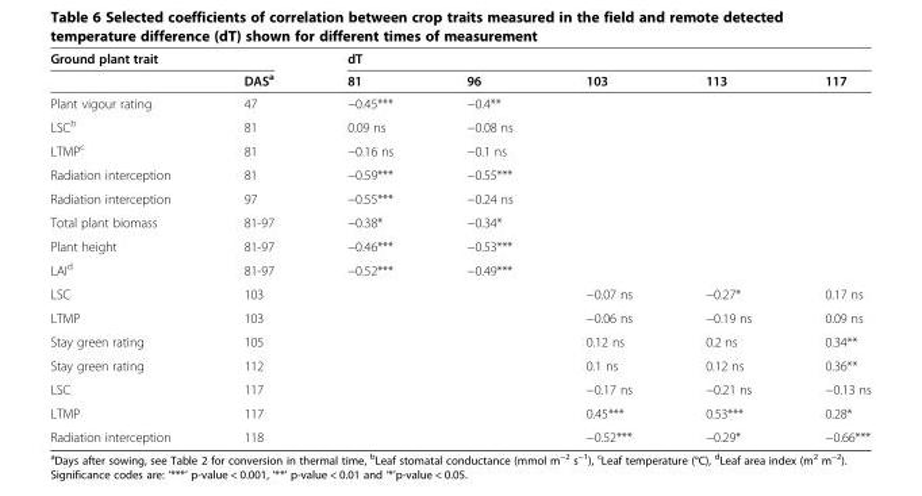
<table><thead><tr><td colspan="2">Ground plant trait</td><td colspan="5">dT</td></tr><tr><td></td><td>DAS<sup>a</sup></td><td>81</td><td>96</td><td>103</td><td>113</td><td>117</td></tr></thead><tbody><tr><td>Plant vigour rating</td><td>47</td><td>−0.45***</td><td>−0.4**</td><td></td><td></td><td></td></tr><tr><td>LSC<sup>b</sup></td><td>81</td><td>0.09 ns</td><td>−0.08 ns</td><td></td><td></td><td></td></tr><tr><td>LTMP<sup>c</sup></td><td>81</td><td>−0.16 ns</td><td>−0.1 ns</td><td></td><td></td><td></td></tr><tr><td>Radiation interception</td><td>81</td><td>−0.59***</td><td>−0.55***</td><td></td><td></td><td></td></tr><tr><td>Radiation interception</td><td>97</td><td>−0.55***</td><td>−0.24 ns</td><td></td><td></td><td></td></tr><tr><td>Total plant biomass</td><td>81-97</td><td>−0.38*</td><td>−0.34*</td><td></td><td></td><td></td></tr><tr><td>Plant height</td><td>81-97</td><td>−0.46***</td><td>−0.53***</td><td></td><td></td><td></td></tr><tr><td>LAI<sup>d</sup></td><td>81-97</td><td>−0.52***</td><td>−0.49***</td><td></td><td></td><td></td></tr><tr><td>LSC</td><td>103</td><td></td><td></td><td>−0.07 ns</td><td>−0.27*</td><td>0.17 ns</td></tr><tr><td>LTMP</td><td>103</td><td></td><td></td><td>−0.06 ns</td><td>−0.19 ns</td><td>0.09 ns</td></tr><tr><td>Stay green rating</td><td>105</td><td></td><td></td><td>0.12 ns</td><td>0.2 ns</td><td>0.34**</td></tr><tr><td>Stay green rating</td><td>112</td><td></td><td></td><td>0.1 ns</td><td>0.12 ns</td><td>0.36**</td></tr><tr><td>LSC</td><td>117</td><td></td><td></td><td>−0.17 ns</td><td>−0.21 ns</td><td>−0.13 ns</td></tr><tr><td>LTMP</td><td>117</td><td></td><td></td><td>0.45***</td><td>0.53***</td><td>0.28*</td></tr><tr><td>Radiation interception</td><td>118</td><td></td><td></td><td>−0.52***</td><td>−0.29*</td><td>−0.66***</td></tr></tbody></table>